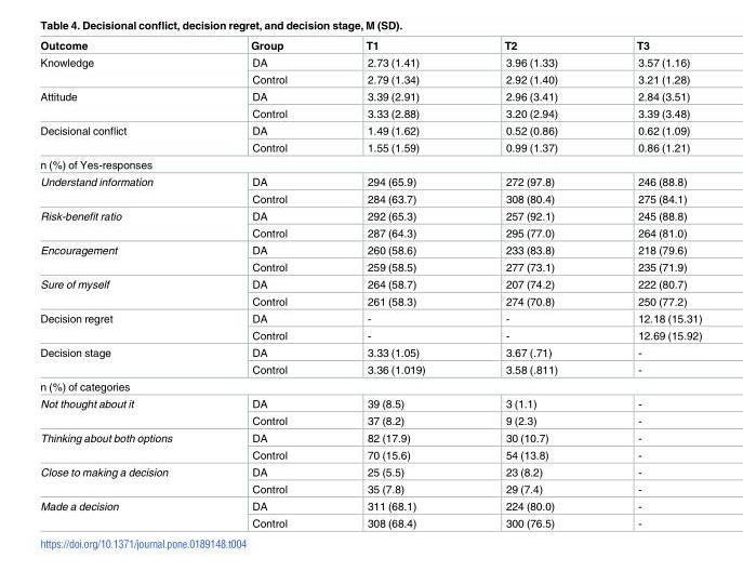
<table><thead><tr><td>Outcome</td><td>Group</td><td>T1</td><td>T2</td><td>T3</td></tr></thead><tbody><tr><td rowspan="2">Knowledge</td><td>DA</td><td>2.73 (1.41)</td><td>3.96 (1.33)</td><td>3.57 (1.16)</td></tr><tr><td>Control</td><td>2.79 (1.34)</td><td>2.92 (1.40)</td><td>3.21 (1.28)</td></tr><tr><td rowspan="2">Attitude</td><td>DA</td><td>3.39 (2.91)</td><td>2.96 (3.41)</td><td>2.84 (3.51)</td></tr><tr><td>Control</td><td>3.33 (2.88)</td><td>3.20 (2.94)</td><td>3.39 (3.48)</td></tr><tr><td rowspan="2">Decisional conflict</td><td>DA</td><td>1.49 (1.62)</td><td>0.52 (0.86)</td><td>0.62 (1.09)</td></tr><tr><td>Control</td><td>1.55 (1.59)</td><td>0.99 (1.37)</td><td>0.86 (1.21)</td></tr><tr><td colspan="5">n (%) of Yes-responses</td></tr><tr><td rowspan="2">Understand information</td><td>DA</td><td>294 (65.9)</td><td>272 (97.8)</td><td>246 (88.8)</td></tr><tr><td>Control</td><td>284 (63.7)</td><td>308 (80.4)</td><td>275 (84.1)</td></tr><tr><td rowspan="2">Risk-benefit ratio</td><td>DA</td><td>292 (65.3)</td><td>257 (92.1)</td><td>245 (88.8)</td></tr><tr><td>Control</td><td>287 (64.3)</td><td>295 (77.0)</td><td>264 (81.0)</td></tr><tr><td rowspan="2">Encouragement</td><td>DA</td><td>260 (58.6)</td><td>233 (83.8)</td><td>218 (79.6)</td></tr><tr><td>Control</td><td>259 (58.5)</td><td>277 (73.1)</td><td>235 (71.9)</td></tr><tr><td rowspan="2">Sure of myself</td><td>DA</td><td>264 (58.7)</td><td>207 (74.2)</td><td>222 (80.7)</td></tr><tr><td>Control</td><td>261 (58.3)</td><td>274 (70.8)</td><td>250 (77.2)</td></tr><tr><td rowspan="2">Decision regret</td><td>DA</td><td>-</td><td>-</td><td>12.18 (15.31)</td></tr><tr><td>Control</td><td>-</td><td>-</td><td>12.69 (15.92)</td></tr><tr><td rowspan="2">Decision stage</td><td>DA</td><td>3.33 (1.05)</td><td>3.67 (.71)</td><td>-</td></tr><tr><td>Control</td><td>3.36 (1.019)</td><td>3.58 (.811)</td><td>-</td></tr><tr><td colspan="5">n (%) of categories</td></tr><tr><td rowspan="2">Not thought about it</td><td>DA</td><td>39 (8.5)</td><td>3 (1.1)</td><td>-</td></tr><tr><td>Control</td><td>37 (8.2)</td><td>9 (2.3)</td><td>-</td></tr><tr><td rowspan="2">Thinking about both options</td><td>DA</td><td>82 (17.9)</td><td>30 (10.7)</td><td>-</td></tr><tr><td>Control</td><td>70 (15.6)</td><td>54 (13.8)</td><td>-</td></tr><tr><td rowspan="2">Close to making a decision</td><td>DA</td><td>25 (5.5)</td><td>23 (8.2)</td><td>-</td></tr><tr><td>Control</td><td>35 (7.8)</td><td>29 (7.4)</td><td>-</td></tr><tr><td rowspan="2">Made a decision</td><td>DA</td><td>311 (68.1)</td><td>224 (80.0)</td><td>-</td></tr><tr><td>Control</td><td>308 (68.4)</td><td>300 (76.5)</td><td>-</td></tr></tbody></table>